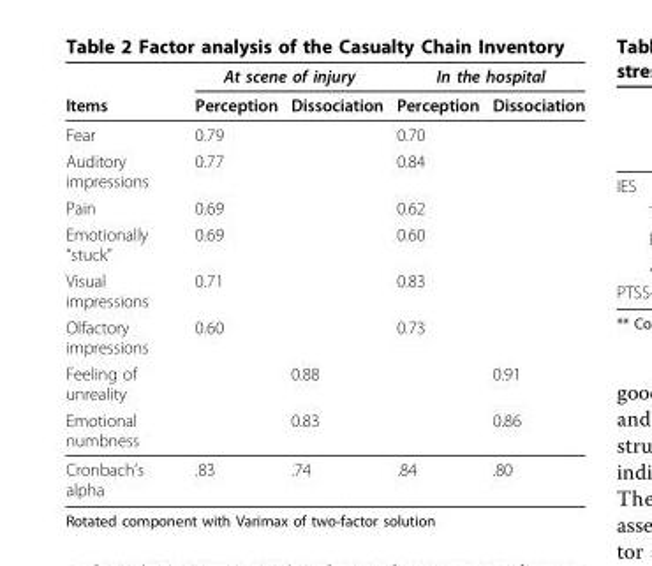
<table><thead><tr><td rowspan="10">Items Fear Auditory impressions Pain Emotionally “stuck” Visual impressions Olfactory impressions Feeling of unreality Emotional numbness</td><td colspan="2">At scene of injury</td><td colspan="2">In the hospital</td></tr><tr><td rowspan="9">Perception 0.79 0.77 0.69 0.69 0.71 0.60</td><td rowspan="9">Dissociation 0.88 0.83</td><td rowspan="9">Perception 0.70 0.84 0.62 0.60 0.83 0.73</td><td rowspan="9">Dissociation 0.91 0.86</td></tr><tr></tr><tr></tr><tr></tr><tr></tr><tr></tr><tr></tr><tr></tr><tr></tr></thead><tbody><tr><td>Cronbach’s alpha</td><td>.83</td><td>.74</td><td>.84</td><td>.80</td></tr></tbody></table>